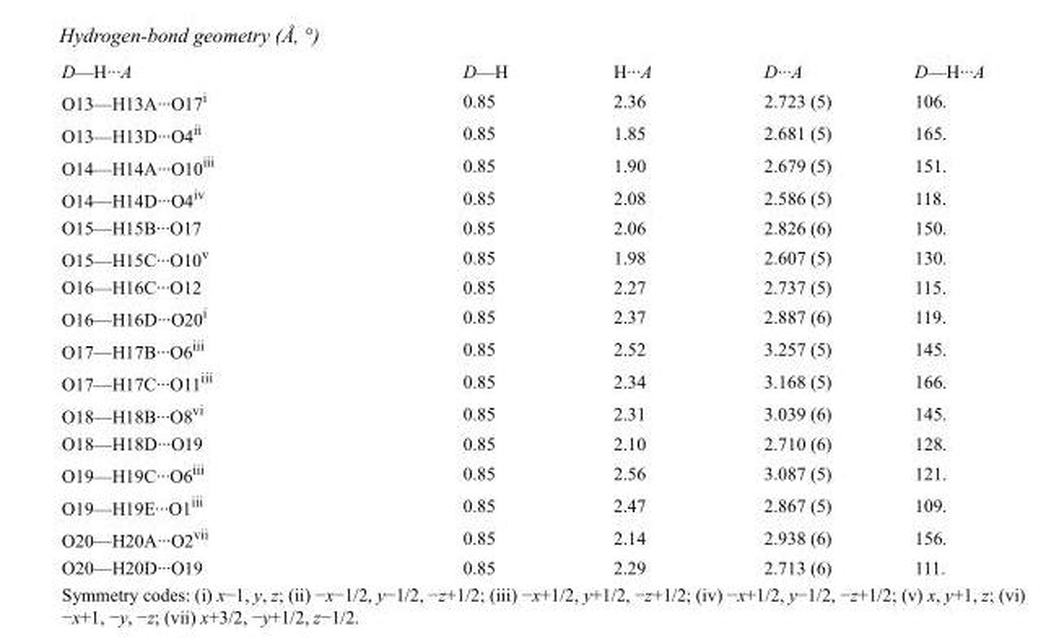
<table><tbody><tr><td>D—H···A</td><td>D—H</td><td>H···A</td><td>D···A</td><td>D—H···A</td></tr><tr><td>O13—H13A···O17<sup>i</sup></td><td>0.85</td><td>2.36</td><td>2.723 (5)</td><td>106.</td></tr><tr><td>O13—H13D···O4<sup>ii</sup></td><td>0.85</td><td>1.85</td><td>2.681 (5)</td><td>165.</td></tr><tr><td>O14—H14A···O10<sup>iii</sup></td><td>0.85</td><td>1.90</td><td>2.679 (5)</td><td>151.</td></tr><tr><td>O14—H14D···O4<sup>iv</sup></td><td>0.85</td><td>2.08</td><td>2.586 (5)</td><td>118.</td></tr><tr><td>O15—H15B···O17</td><td>0.85</td><td>2.06</td><td>2.826 (6)</td><td>150.</td></tr><tr><td>O15—H15C···O10<sup>v</sup></td><td>0.85</td><td>1.98</td><td>2.607 (5)</td><td>130.</td></tr><tr><td>O16—H16C···O12</td><td>0.85</td><td>2.27</td><td>2.737 (5)</td><td>115.</td></tr><tr><td>O16—H16D···O20<sup>i</sup></td><td>0.85</td><td>2.37</td><td>2.887 (6)</td><td>119.</td></tr><tr><td>O17—H17B···O6<sup>iii</sup></td><td>0.85</td><td>2.52</td><td>3.257 (5)</td><td>145.</td></tr><tr><td>O17—H17C···O11<sup>iii</sup></td><td>0.85</td><td>2.34</td><td>3.168 (5)</td><td>166.</td></tr><tr><td>O18—H18B···O8<sup>vi</sup></td><td>0.85</td><td>2.31</td><td>3.039 (6)</td><td>145.</td></tr><tr><td>O18—H18D···O19</td><td>0.85</td><td>2.10</td><td>2.710 (6)</td><td>128.</td></tr><tr><td>O19—H19C···O6<sup>iii</sup></td><td>0.85</td><td>2.56</td><td>3.087 (5)</td><td>121.</td></tr><tr><td>O19—H19E···O1<sup>iii</sup></td><td>0.85</td><td>2.47</td><td>2.867 (5)</td><td>109.</td></tr><tr><td>O20—H20A···O2<sup>vii</sup></td><td>0.85</td><td>2.14</td><td>2.938 (6)</td><td>156.</td></tr><tr><td>O20—H20D···O19</td><td>0.85</td><td>2.29</td><td>2.713 (6)</td><td>111.</td></tr></tbody></table>